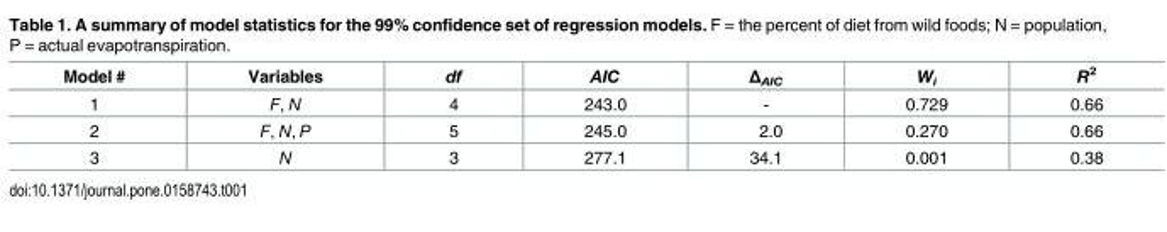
<table><thead><tr><td>Model #</td><td>Variables</td><td>df</td><td>AIC</td><td>Δ<sub>AIC</sub></td><td>W<sub>i</sub></td><td>R<sup>2</sup></td></tr></thead><tbody><tr><td>1</td><td>F, N</td><td>4</td><td>243.0</td><td>-</td><td>0.729</td><td>0.66</td></tr><tr><td>2</td><td>F, N, P</td><td>5</td><td>245.0</td><td>2.0</td><td>0.270</td><td>0.66</td></tr><tr><td>3</td><td>N</td><td>3</td><td>277.1</td><td>34.1</td><td>0.001</td><td>0.38</td></tr></tbody></table>